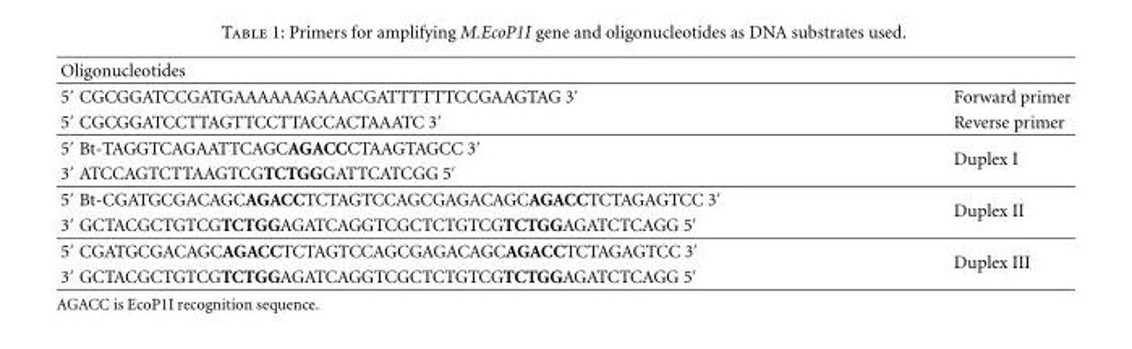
<table><thead><tr><td>Oligonucleotides</td><td></td></tr></thead><tbody><tr><td>5′ CGCGGATCCGATGAAAAAAGAAACGATTTTTTCCGAAGTAG 3′</td><td>Forward primer</td></tr><tr><td>5′ CGCGGATCCTTAGTTCCTTACCACTAAATC 3′</td><td>Reverse primer</td></tr><tr><td>5′ Bt-TAGGTCAGAATTCAGCAGACCCTAAGTAGCC 3′</td><td rowspan="2">Duplex I</td></tr><tr><td>3′ ATCCAGTCTTAAGTCGTCTGGGATTCATCGG 5′</td></tr><tr><td>5′ Bt-CGATGCGACAGCAGACCTCTAGTCCAGCGAGACAGCAGACCTCTAGAGTCC 3′</td><td rowspan="2">Duplex II</td></tr><tr><td>3′ GCTACGCTGTCGTCTGGAGATCAGGTCGCTCTGTCGTCTGGAGATCTCAGG 5′</td></tr><tr><td>5′ CGATGCGACAGCAGACCTCTAGTCCAGCGAGACAGCAGACCTCTAGAGTCC 3′</td><td rowspan="2">Duplex III</td></tr><tr><td>3′ GCTACGCTGTCGTCTGGAGATCAGGTCGCTCTGTCGTCTGGAGATCTCAGG 5′</td></tr></tbody></table>